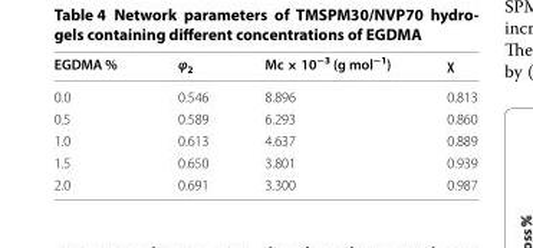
<table><thead><tr><td>EGDMA %</td><td>φ<sub>2</sub></td><td>Mc × 10<sup>−3</sup> (g mol<sup>−1</sup>)</td><td>χ</td></tr></thead><tbody><tr><td>0.0</td><td>0.546</td><td>8.896</td><td>0.813</td></tr><tr><td>0.5</td><td>0.589</td><td>6.293</td><td>0.860</td></tr><tr><td>1.0</td><td>0.613</td><td>4.637</td><td>0.889</td></tr><tr><td>1.5</td><td>0.650</td><td>3.801</td><td>0.939</td></tr><tr><td>2.0</td><td>0.691</td><td>3.300</td><td>0.987</td></tr></tbody></table>